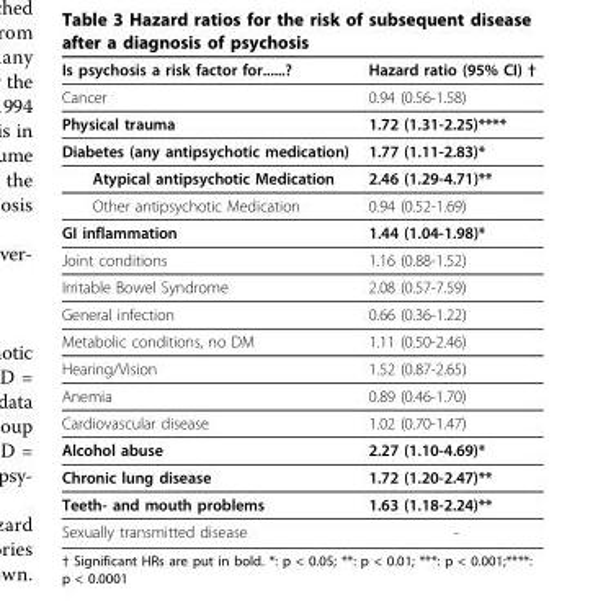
<table><thead><tr><td>Is psychosis a risk factor for......?</td><td>Hazard ratio (95% CI) †</td></tr></thead><tbody><tr><td>Cancer</td><td>0.94 (0.56-1.58)</td></tr><tr><td>Physical trauma</td><td>1.72 (1.31-2.25)****</td></tr><tr><td>Diabetes (any antipsychotic medication)</td><td>1.77 (1.11-2.83)*</td></tr><tr><td>Atypical antipsychotic Medication</td><td>2.46 (1.29-4.71)**</td></tr><tr><td>Other antipsychotic Medication</td><td>0.94 (0.52-1.69)</td></tr><tr><td>GI inflammation</td><td>1.44 (1.04-1.98)*</td></tr><tr><td>Joint conditions</td><td>1.16 (0.88-1.52)</td></tr><tr><td>Irritable Bowel Syndrome</td><td>2.08 (0.57-7.59)</td></tr><tr><td>General infection</td><td>0.66 (0.36-1.22)</td></tr><tr><td>Metabolic conditions, no DM</td><td>1.11 (0.50-2.46)</td></tr><tr><td>Hearing/Vision</td><td>1.52 (0.87-2.65)</td></tr><tr><td>Anemia</td><td>0.89 (0.46-1.70)</td></tr><tr><td>Cardiovascular disease</td><td>1.02 (0.70-1.47)</td></tr><tr><td>Alcohol abuse</td><td>2.27 (1.10-4.69)*</td></tr><tr><td>Chronic lung disease</td><td>1.72 (1.20-2.47)**</td></tr><tr><td>Teeth- and mouth problems</td><td>1.63 (1.18-2.24)**</td></tr><tr><td>Sexually transmitted disease</td><td>-</td></tr></tbody></table>